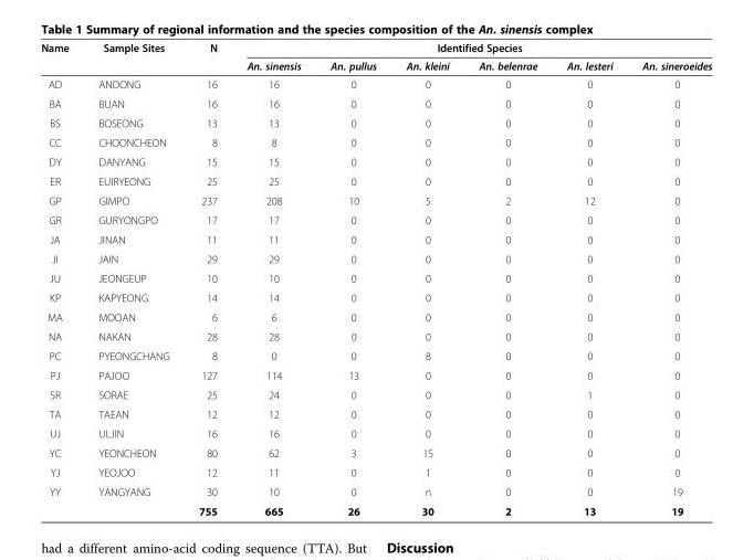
<table><thead><tr><td rowspan="2">Name</td><td rowspan="2">Sample Sites</td><td rowspan="2">N</td><td colspan="6">Identified Species</td></tr><tr><td>An. sinensis</td><td>An. pullus</td><td>An. kleini</td><td>An. belenrae</td><td>An. lesteri</td><td>An. sineroeides</td></tr></thead><tbody><tr><td>AD</td><td>ANDONG</td><td>16</td><td>16</td><td>0</td><td>0</td><td>0</td><td>0</td><td>0</td></tr><tr><td>BA</td><td>BUAN</td><td>16</td><td>16</td><td>0</td><td>0</td><td>0</td><td>0</td><td>0</td></tr><tr><td>BS</td><td>BOSEONG</td><td>13</td><td>13</td><td>0</td><td>0</td><td>0</td><td>0</td><td>0</td></tr><tr><td>CC</td><td>CHOONCHEON</td><td>8</td><td>8</td><td>0</td><td>0</td><td>0</td><td>0</td><td>0</td></tr><tr><td>DY</td><td>DANYANG</td><td>15</td><td>15</td><td>0</td><td>0</td><td>0</td><td>0</td><td>0</td></tr><tr><td>ER</td><td>EUIRYEONG</td><td>25</td><td>25</td><td>0</td><td>0</td><td>0</td><td>0</td><td>0</td></tr><tr><td>GP</td><td>GIMPO</td><td>237</td><td>208</td><td>10</td><td>5</td><td>2</td><td>12</td><td>0</td></tr><tr><td>GR</td><td>GURYONGPO</td><td>17</td><td>17</td><td>0</td><td>0</td><td>0</td><td>0</td><td>0</td></tr><tr><td>JA</td><td>JINAN</td><td>11</td><td>11</td><td>0</td><td>0</td><td>0</td><td>0</td><td>0</td></tr><tr><td>JI</td><td>JAIN</td><td>29</td><td>29</td><td>0</td><td>0</td><td>0</td><td>0</td><td>0</td></tr><tr><td>JU</td><td>JEONGEUP</td><td>10</td><td>10</td><td>0</td><td>0</td><td>0</td><td>0</td><td>0</td></tr><tr><td>KP</td><td>KAPYEONG</td><td>14</td><td>14</td><td>0</td><td>0</td><td>0</td><td>0</td><td>0</td></tr><tr><td>MA</td><td>MOOAN</td><td>6</td><td>6</td><td>0</td><td>0</td><td>0</td><td>0</td><td>0</td></tr><tr><td>NA</td><td>NAKAN</td><td>28</td><td>28</td><td>0</td><td>0</td><td>0</td><td>0</td><td>0</td></tr><tr><td>PC</td><td>PYEONGCHANG</td><td>8</td><td>0</td><td>0</td><td>8</td><td>0</td><td>0</td><td>0</td></tr><tr><td>PJ</td><td>PAJOO</td><td>127</td><td>114</td><td>13</td><td>0</td><td>0</td><td>0</td><td>0</td></tr><tr><td>SR</td><td>SORAE</td><td>25</td><td>24</td><td>0</td><td>0</td><td>0</td><td>1</td><td>0</td></tr><tr><td>TA</td><td>TAEAN</td><td>12</td><td>12</td><td>0</td><td>0</td><td>0</td><td>0</td><td>0</td></tr><tr><td>UJ</td><td>ULJIN</td><td>16</td><td>16</td><td>0</td><td>0</td><td>0</td><td>0</td><td>0</td></tr><tr><td>YC</td><td>YEONCHEON</td><td>80</td><td>62</td><td>3</td><td>15</td><td>0</td><td>0</td><td>0</td></tr><tr><td>YJ</td><td>YEOJOO</td><td>12</td><td>11</td><td>0</td><td>1</td><td>0</td><td>0</td><td>0</td></tr><tr><td rowspan="2">YY</td><td>YANGYANG</td><td>30</td><td>10</td><td>0</td><td>n</td><td>0</td><td>0</td><td>19</td></tr><tr><td></td><td>755</td><td>665</td><td>26</td><td>30</td><td>2</td><td>13</td><td>19</td></tr></tbody></table>